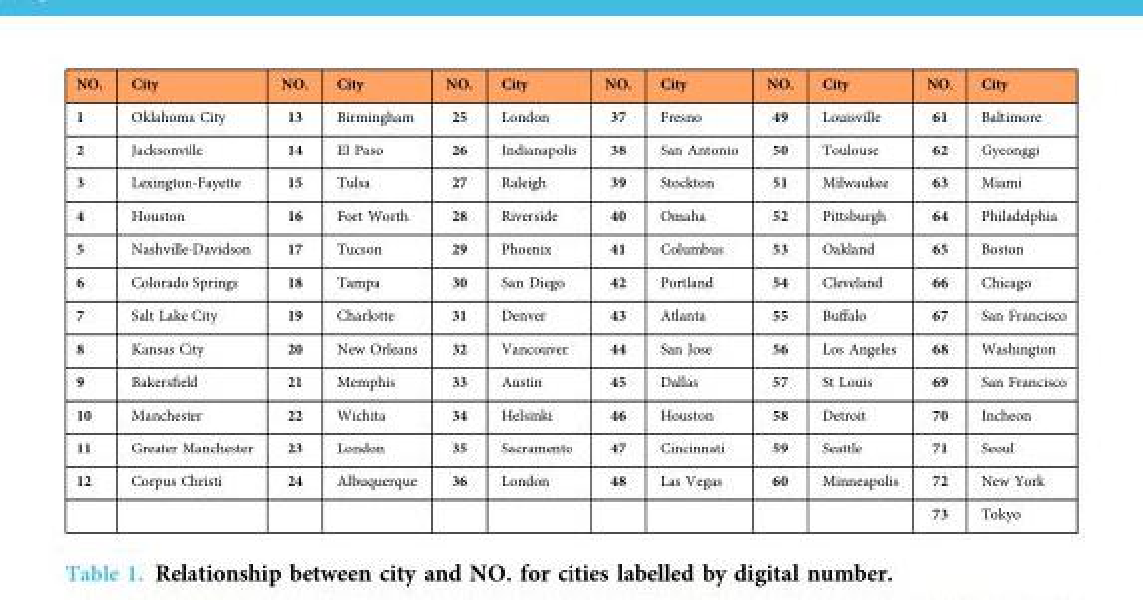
<table><thead><tr><td>NO.</td><td>City</td><td>NO.</td><td>City</td><td>NO.</td><td>City</td><td>NO.</td><td>City</td><td>NO.</td><td>City</td><td>NO.</td><td>City</td></tr></thead><tbody><tr><td>1</td><td>Oklahoma City</td><td>13</td><td>Birmingham</td><td>25</td><td>London</td><td>37</td><td>Fresno</td><td>49</td><td>Louisville</td><td>61</td><td>Baltimore</td></tr><tr><td>2</td><td>Jacksonville</td><td>14</td><td>El Paso</td><td>26</td><td>Indianapolis</td><td>38</td><td>San Antonio</td><td>50</td><td>Toulouse</td><td>62</td><td>Gyeonggi</td></tr><tr><td>3</td><td>Lexington-Fayette</td><td>15</td><td>Tulsa</td><td>27</td><td>Raleigh</td><td>39</td><td>Stockton</td><td>51</td><td>Milwaukee</td><td>63</td><td>Miami</td></tr><tr><td>4</td><td>Houston</td><td>16</td><td>Fort Worth</td><td>28</td><td>Riverside</td><td>40</td><td>Omaha</td><td>52</td><td>Pittsburgh</td><td>64</td><td>Philadelphia</td></tr><tr><td>5</td><td>Nashville-Davidson</td><td>17</td><td>Tucson</td><td>29</td><td>Phoenix</td><td>41</td><td>Columbus</td><td>53</td><td>Oakland</td><td>65</td><td>Boston</td></tr><tr><td>6</td><td>Colorado Springs</td><td>18</td><td>Tampa</td><td>30</td><td>San Diego</td><td>42</td><td>Portland</td><td>54</td><td>Cleveland</td><td>66</td><td>Chicago</td></tr><tr><td>7</td><td>Salt Lake City</td><td>19</td><td>Charlotte</td><td>31</td><td>Denver</td><td>43</td><td>Atlanta</td><td>55</td><td>Buffalo</td><td>67</td><td>San Francisco</td></tr><tr><td>8</td><td>Kansas City</td><td>20</td><td>New Orleans</td><td>32</td><td>Vancouver</td><td>44</td><td>San Jose</td><td>56</td><td>Los Angeles</td><td>68</td><td>Washington</td></tr><tr><td>9</td><td>Bakersfield</td><td>21</td><td>Memphis</td><td>33</td><td>Austin</td><td>45</td><td>Dallas</td><td>57</td><td>St Louis</td><td>69</td><td>San Francisco</td></tr><tr><td>10</td><td>Manchester</td><td>22</td><td>Wichita</td><td>34</td><td>Helsinki</td><td>46</td><td>Houston</td><td>58</td><td>Detroit</td><td>70</td><td>Incheon</td></tr><tr><td>11</td><td>Greater Manchester</td><td>23</td><td>London</td><td>35</td><td>Sacramento</td><td>47</td><td>Cincinnati</td><td>59</td><td>Seattle</td><td>71</td><td>Seoul</td></tr><tr><td rowspan="2">12</td><td>Corpus Christi</td><td>24</td><td>Albuquerque</td><td>36</td><td>London</td><td>48</td><td>Las Vegas</td><td>60</td><td>Minneapolis</td><td>72</td><td>New York</td></tr><tr><td></td><td></td><td></td><td></td><td></td><td></td><td></td><td></td><td></td><td>73</td><td>Tokyo</td></tr></tbody></table>